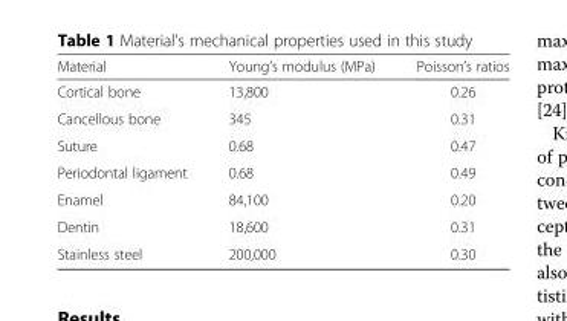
<table><thead><tr><td>Material</td><td>Young’s modulus (MPa)</td><td>Poisson’s ratios</td></tr></thead><tbody><tr><td>Cortical bone</td><td>13,800</td><td>0.26</td></tr><tr><td>Cancellous bone</td><td>345</td><td>0.31</td></tr><tr><td>Suture</td><td>0.68</td><td>0.47</td></tr><tr><td>Periodontal ligament</td><td>0.68</td><td>0.49</td></tr><tr><td>Enamel</td><td>84,100</td><td>0.20</td></tr><tr><td>Dentin</td><td>18,600</td><td>0.31</td></tr><tr><td>Stainless steel</td><td>200,000</td><td>0.30</td></tr></tbody></table>